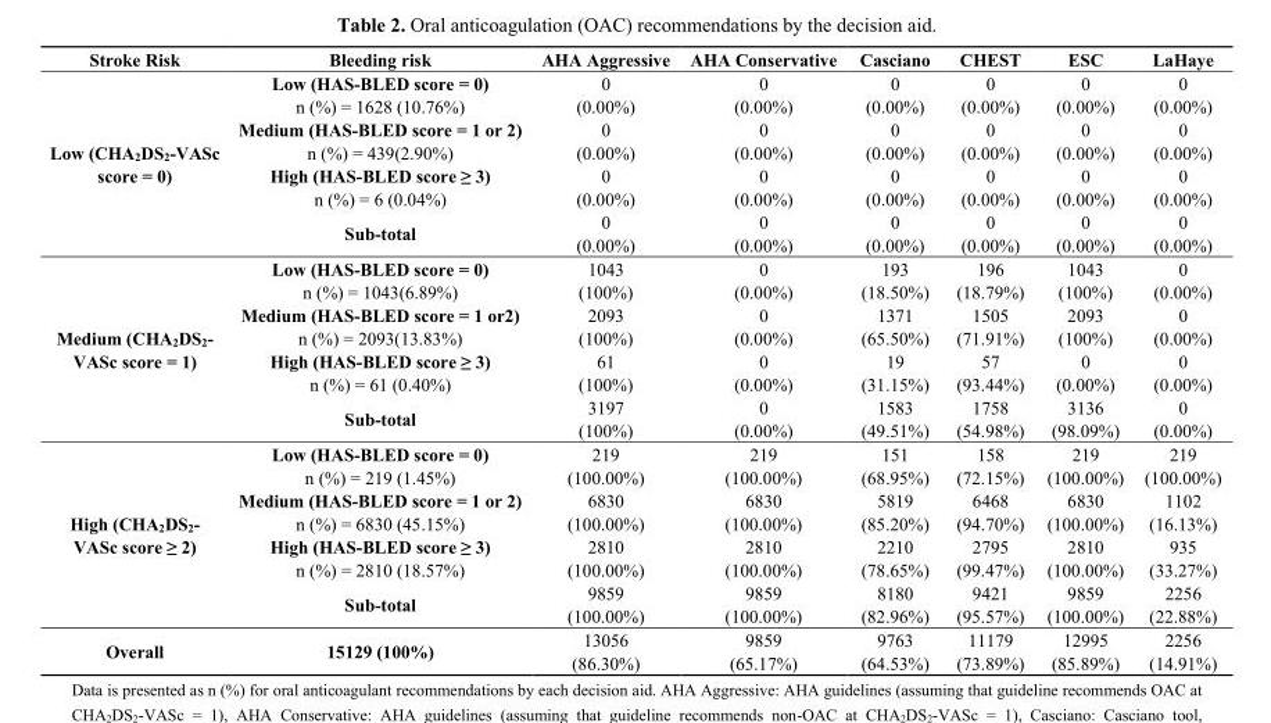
<table><thead><tr><td>Stroke Risk</td><td>Bleeding risk</td><td>AHA Aggressive</td><td>AHA Conservative</td><td>Casciano</td><td>CHEST</td><td>ESC</td><td>LaHaye</td></tr></thead><tbody><tr><td rowspan="8">Low (CHA<sub>2</sub>DS<sub>2</sub>-VASc score = 0)</td><td>Low (HAS-BLED score = 0)</td><td>0</td><td>0</td><td>0</td><td>0</td><td>0</td><td>0</td></tr><tr><td>n (%) = 1628 (10.76%)</td><td>(0.00%)</td><td>(0.00%)</td><td>(0.00%)</td><td>(0.00%)</td><td>(0.00%)</td><td>(0.00%)</td></tr><tr><td>Medium (HAS-BLED score = 1 or 2)</td><td>0</td><td>0</td><td>0</td><td>0</td><td>0</td><td>0</td></tr><tr><td>n (%) = 439(2.90%)</td><td>(0.00%)</td><td>(0.00%)</td><td>(0.00%)</td><td>(0.00%)</td><td>(0.00%)</td><td>(0.00%)</td></tr><tr><td>High (HAS-BLED score ≥ 3)</td><td>0</td><td>0</td><td>0</td><td>0</td><td>0</td><td>0</td></tr><tr><td>n (%) = 6 (0.04%)</td><td>(0.00%)</td><td>(0.00%)</td><td>(0.00%)</td><td>(0.00%)</td><td>(0.00%)</td><td>(0.00%)</td></tr><tr><td rowspan="2">Sub-total</td><td>0</td><td>0</td><td>0</td><td>0</td><td>0</td><td>0</td></tr><tr><td>(0.00%)</td><td>(0.00%)</td><td>(0.00%)</td><td>(0.00%)</td><td>(0.00%)</td><td>(0.00%)</td></tr><tr><td rowspan="8">Medium (CHA<sub>2</sub>DS<sub>2</sub>- VASc score = 1)</td><td>Low (HAS-BLED score = 0)</td><td>1043</td><td>0</td><td>193</td><td>196</td><td>1043</td><td>0</td></tr><tr><td>n (%) = 1043(6.89%)</td><td>(100%)</td><td>(0.00%)</td><td>(18.50%)</td><td>(18.79%)</td><td>(100%)</td><td>(0.00%)</td></tr><tr><td>Medium (HAS-BLED score = 1 or2)</td><td>2093</td><td>0</td><td>1371</td><td>1505</td><td>2093</td><td>0</td></tr><tr><td>n (%) = 2093(13.83%)</td><td>(100%)</td><td>(0.00%)</td><td>(65.50%)</td><td>(71.91%)</td><td>(100%)</td><td>(0.00%)</td></tr><tr><td>High (HAS-BLED score ≥ 3)</td><td>61</td><td>0</td><td>19</td><td>57</td><td>0</td><td>0</td></tr><tr><td>n (%) = 61 (0.40%)</td><td>(100%)</td><td>(0.00%)</td><td>(31.15%)</td><td>(93.44%)</td><td>(0.00%)</td><td>(0.00%)</td></tr><tr><td rowspan="2">Sub-total</td><td>3197</td><td>0</td><td>1583</td><td>1758</td><td>3136</td><td>0</td></tr><tr><td>(100%)</td><td>(0.00%)</td><td>(49.51%)</td><td>(54.98%)</td><td>(98.09%)</td><td>(0.00%)</td></tr><tr><td rowspan="8">High (CHA<sub>2</sub>DS<sub>2</sub>- VASc score ≥ 2)</td><td>Low (HAS-BLED score = 0)</td><td>219</td><td>219</td><td>151</td><td>158</td><td>219</td><td>219</td></tr><tr><td>n (%) = 219 (1.45%)</td><td>(100.00%)</td><td>(100.00%)</td><td>(68.95%)</td><td>(72.15%)</td><td>(100.00%)</td><td>(100.00%)</td></tr><tr><td>Medium (HAS-BLED score = 1 or 2)</td><td>6830</td><td>6830</td><td>5819</td><td>6468</td><td>6830</td><td>1102</td></tr><tr><td>n (%) = 6830 (45.15%)</td><td>(100.00%)</td><td>(100.00%)</td><td>(85.20%)</td><td>(94.70%)</td><td>(100.00%)</td><td>(16.13%)</td></tr><tr><td>High (HAS-BLED score ≥ 3)</td><td>2810</td><td>2810</td><td>2210</td><td>2795</td><td>2810</td><td>935</td></tr><tr><td>n (%) = 2810 (18.57%)</td><td>(100.00%)</td><td>(100.00%)</td><td>(78.65%)</td><td>(99.47%)</td><td>(100.00%)</td><td>(33.27%)</td></tr><tr><td rowspan="2">Sub-total</td><td>9859</td><td>9859</td><td>8180</td><td>9421</td><td>9859</td><td>2256</td></tr><tr><td>(100.00%)</td><td>(100.00%)</td><td>(82.96%)</td><td>(95.57%)</td><td>(100.00%)</td><td>(22.88%)</td></tr><tr><td rowspan="2">Overall</td><td rowspan="2">15129 (100%)</td><td>13056</td><td>9859</td><td>9763</td><td>11179</td><td>12995</td><td>2256</td></tr><tr><td>(86.30%)</td><td>(65.17%)</td><td>(64.53%)</td><td>(73.89%)</td><td>(85.89%)</td><td>(14.91%)</td></tr></tbody></table>